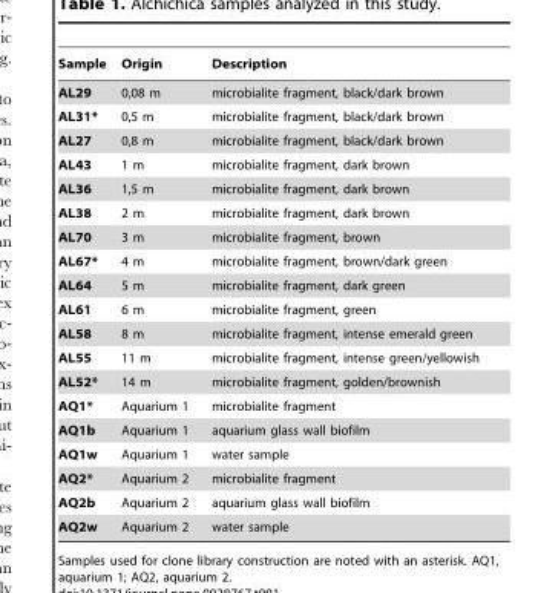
<table><thead><tr><td>Sample</td><td>Origin</td><td>Description</td></tr></thead><tbody><tr><td>AL29</td><td>0,08 m</td><td>microbialite fragment, black/dark brown</td></tr><tr><td>AL31*</td><td>0,5 m</td><td>microbialite fragment, black/dark brown</td></tr><tr><td>AL27</td><td>0,8 m</td><td>microbialite fragment, black/dark brown</td></tr><tr><td>AL43</td><td>1 m</td><td>microbialite fragment, dark brown</td></tr><tr><td>AL36</td><td>1,5 m</td><td>microbialite fragment, dark brown</td></tr><tr><td>AL38</td><td>2 m</td><td>microbialite fragment, dark brown</td></tr><tr><td>AL70</td><td>3 m</td><td>microbialite fragment, brown</td></tr><tr><td>AL67*</td><td>4 m</td><td>microbialite fragment, brown/dark green</td></tr><tr><td>AL64</td><td>5 m</td><td>microbialite fragment, dark green</td></tr><tr><td>AL61</td><td>6 m</td><td>microbialite fragment, green</td></tr><tr><td>AL58</td><td>8 m</td><td>microbialite fragment, intense emerald green</td></tr><tr><td>AL55</td><td>11 m</td><td>microbialite fragment, intense green/yellowish</td></tr><tr><td>AL52*</td><td>14 m</td><td>microbialite fragment, golden/brownish</td></tr><tr><td>AQ1*</td><td>Aquarium 1</td><td>microbialite fragment</td></tr><tr><td>AQ1b</td><td>Aquarium 1</td><td>aquarium glass wall biofilm</td></tr><tr><td>AQ1w</td><td>Aquarium 1</td><td>water sample</td></tr><tr><td>AQ2*</td><td>Aquarium 2</td><td>microbialite fragment</td></tr><tr><td>AQ2b</td><td>Aquarium 2</td><td>aquarium glass wall biofilm</td></tr><tr><td>AQ2w</td><td>Aquarium 2</td><td>water sample</td></tr></tbody></table>